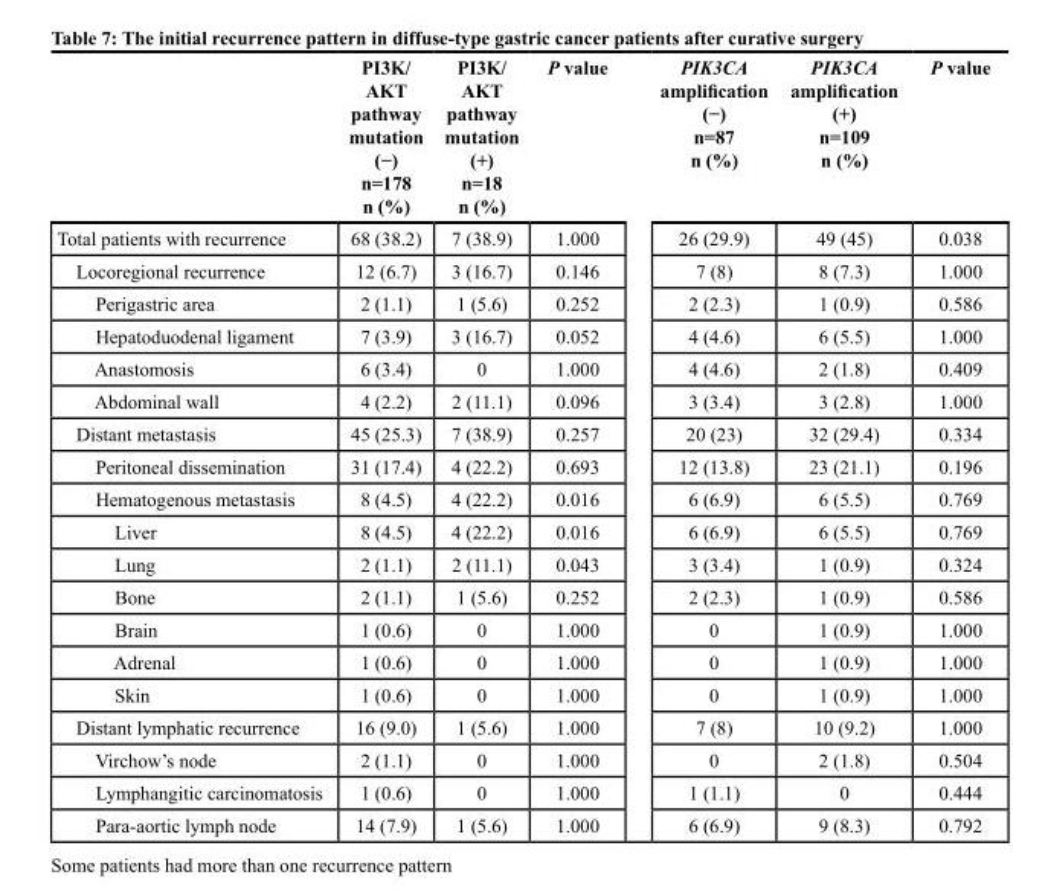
<table><thead><tr><td></td><td>PI3K/ AKT pathway mutation (−) n=178 n (%)</td><td>PI3K/ AKT pathway mutation (+) n=18 n (%)</td><td>P value</td><td>PIK3CA amplification (−) n=87 n (%)</td><td>PIK3CA amplification (+) n=109 n (%)</td><td>P value</td></tr></thead><tbody><tr><td>Total patients with recurrence</td><td>68 (38.2)</td><td>7 (38.9)</td><td>1.000</td><td>26 (29.9)</td><td>49 (45)</td><td>0.038</td></tr><tr><td>Locoregional recurrence</td><td>12 (6.7)</td><td>3 (16.7)</td><td>0.146</td><td>7 (8)</td><td>8 (7.3)</td><td>1.000</td></tr><tr><td>Perigastric area</td><td>2 (1.1)</td><td>1 (5.6)</td><td>0.252</td><td>2 (2.3)</td><td>1 (0.9)</td><td>0.586</td></tr><tr><td>Hepatoduodenal ligament</td><td>7 (3.9)</td><td>3 (16.7)</td><td>0.052</td><td>4 (4.6)</td><td>6 (5.5)</td><td>1.000</td></tr><tr><td>Anastomosis</td><td>6 (3.4)</td><td>0</td><td>1.000</td><td>4 (4.6)</td><td>2 (1.8)</td><td>0.409</td></tr><tr><td>Abdominal wall</td><td>4 (2.2)</td><td>2 (11.1)</td><td>0.096</td><td>3 (3.4)</td><td>3 (2.8)</td><td>1.000</td></tr><tr><td>Distant metastasis</td><td>45 (25.3)</td><td>7 (38.9)</td><td>0.257</td><td>20 (23)</td><td>32 (29.4)</td><td>0.334</td></tr><tr><td>Peritoneal dissemination</td><td>31 (17.4)</td><td>4 (22.2)</td><td>0.693</td><td>12 (13.8)</td><td>23 (21.1)</td><td>0.196</td></tr><tr><td>Hematogenous metastasis</td><td>8 (4.5)</td><td>4 (22.2)</td><td>0.016</td><td>6 (6.9)</td><td>6 (5.5)</td><td>0.769</td></tr><tr><td>Liver</td><td>8 (4.5)</td><td>4 (22.2)</td><td>0.016</td><td>6 (6.9)</td><td>6 (5.5)</td><td>0.769</td></tr><tr><td>Lung</td><td>2 (1.1)</td><td>2 (11.1)</td><td>0.043</td><td>3 (3.4)</td><td>1 (0.9)</td><td>0.324</td></tr><tr><td>Bone</td><td>2 (1.1)</td><td>1 (5.6)</td><td>0.252</td><td>2 (2.3)</td><td>1 (0.9)</td><td>0.586</td></tr><tr><td>Brain</td><td>1 (0.6)</td><td>0</td><td>1.000</td><td>0</td><td>1 (0.9)</td><td>1.000</td></tr><tr><td>Adrenal</td><td>1 (0.6)</td><td>0</td><td>1.000</td><td>0</td><td>1 (0.9)</td><td>1.000</td></tr><tr><td>Skin</td><td>1 (0.6)</td><td>0</td><td>1.000</td><td>0</td><td>1 (0.9)</td><td>1.000</td></tr><tr><td>Distant lymphatic recurrence</td><td>16 (9.0)</td><td>1 (5.6)</td><td>1.000</td><td>7 (8)</td><td>10 (9.2)</td><td>1.000</td></tr><tr><td>Virchow’s node</td><td>2 (1.1)</td><td>0</td><td>1.000</td><td>0</td><td>2 (1.8)</td><td>0.504</td></tr><tr><td>Lymphangitic carcinomatosis</td><td>1 (0.6)</td><td>0</td><td>1.000</td><td>1 (1.1)</td><td>0</td><td>0.444</td></tr><tr><td>Para-aortic lymph node</td><td>14 (7.9)</td><td>1 (5.6)</td><td>1.000</td><td>6 (6.9)</td><td>9 (8.3)</td><td>0.792</td></tr></tbody></table>